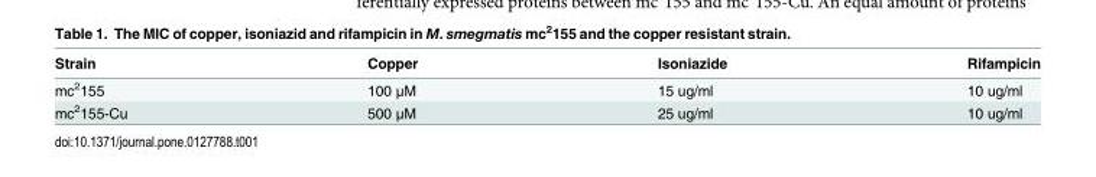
<table><thead><tr><td>Strain</td><td>Copper</td><td>Isoniazide</td><td>Rifampicin</td></tr></thead><tbody><tr><td>mc<sup>2</sup>155</td><td>100 μM</td><td>15 ug/ml</td><td>10 ug/ml</td></tr><tr><td>mc<sup>2</sup>155-Cu</td><td>500 μM</td><td>25 ug/ml</td><td>10 ug/ml</td></tr></tbody></table>